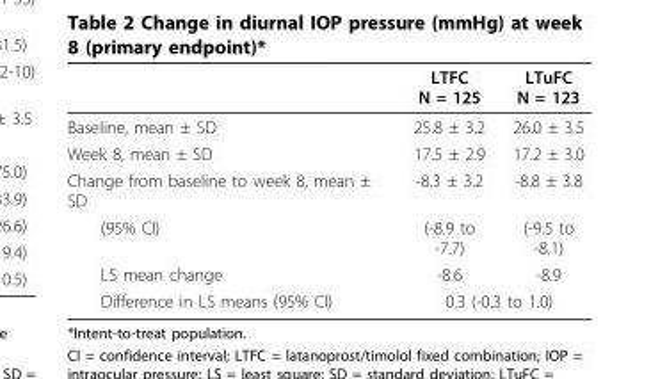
<table><thead><tr><td></td><td>LTFC N = 125</td><td>LTuFC N = 123</td></tr></thead><tbody><tr><td>Baseline, mean ± SD</td><td>25.8 ± 3.2</td><td>26.0 ± 3.5</td></tr><tr><td>Week 8, mean ± SD</td><td>17.5 ± 2.9</td><td>17.2 ± 3.0</td></tr><tr><td>Change from baseline to week 8, mean ± SD</td><td>-8.3 ± 3.2</td><td>-8.8 ± 3.8</td></tr><tr><td>(95% CI)</td><td>(-8.9 to -7.7)</td><td>(-9.5 to -8.1)</td></tr><tr><td>LS mean change</td><td>-8.6</td><td>-8.9</td></tr><tr><td>Difference in LS means (95% CI)</td><td colspan="2">0.3 (-0.3 to 1.0)</td></tr></tbody></table>